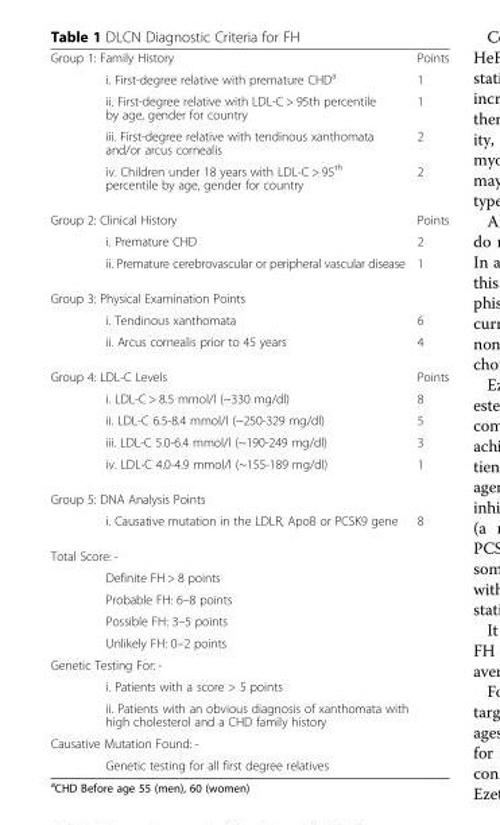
<table><tbody><tr><td>Group 1: Family History</td><td>Points</td></tr><tr><td>i. First-degree relative with premature CHD<sup>a</sup></td><td>1</td></tr><tr><td>ii. First-degree relative with LDL-C &gt; 95th percentile by age, gender for country</td><td>1</td></tr><tr><td>iii. First-degree relative with tendinous xanthomata and/or arcus cornealis</td><td>2</td></tr><tr><td>iv. Children under 18 years with LDL-C &gt; 95<sup>th</sup> percentile by age, gender for country</td><td>2</td></tr><tr><td>Group 2: Clinical History</td><td>Points</td></tr><tr><td>i. Premature CHD</td><td>2</td></tr><tr><td>ii. Premature cerebrovascular or peripheral vascular disease</td><td>1</td></tr><tr><td colspan="2">Group 3: Physical Examination Points</td></tr><tr><td>i. Tendinous xanthomata</td><td>6</td></tr><tr><td>ii. Arcus cornealis prior to 45 years</td><td>4</td></tr><tr><td>Group 4: LDL-C Levels</td><td>Points</td></tr><tr><td>i. LDL-C &gt; 8.5 mmol/l (~330 mg/dl)</td><td>8</td></tr><tr><td>ii. LDL-C 6.5-8.4 mmol/l (~250-329 mg/dl)</td><td>5</td></tr><tr><td>iii. LDL-C 5.0-6.4 mmol/l (~190-249 mg/dl)</td><td>3</td></tr><tr><td>iv. LDL-C 4.0-4.9 mmol/l (~155-189 mg/dl)</td><td>1</td></tr><tr><td colspan="2">Group 5: DNA Analysis Points</td></tr><tr><td>i. Causative mutation in the LDLR, ApoB or PCSK9 gene</td><td>8</td></tr><tr><td colspan="2">Total Score: -</td></tr><tr><td colspan="2">Definite FH &gt; 8 points</td></tr><tr><td colspan="2">Probable FH: 6–8 points</td></tr><tr><td colspan="2">Possible FH: 3–5 points</td></tr><tr><td colspan="2">Unlikely FH: 0–2 points</td></tr><tr><td colspan="2">Genetic Testing For: -</td></tr><tr><td colspan="2">i. Patients with a score &gt; 5 points</td></tr><tr><td colspan="2">ii. Patients with an obvious diagnosis of xanthomata with high cholesterol and a CHD family history</td></tr><tr><td colspan="2">Causative Mutation Found: -</td></tr><tr><td colspan="2">Genetic testing for all first degree relatives</td></tr></tbody></table>